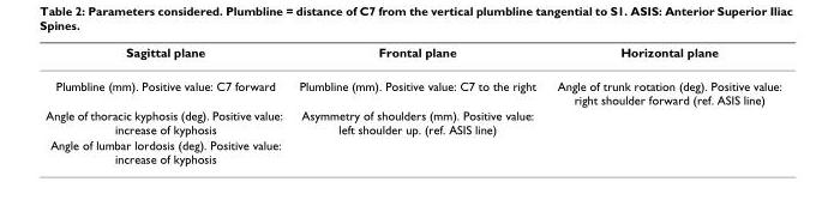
<table><thead><tr><td>Sagittal plane</td><td>Frontal plane</td><td>Horizontal plane</td></tr></thead><tbody><tr><td>Plumbline (mm). Positive value: C7 forward</td><td>Plumbline (mm). Positive value: C7 to the right</td><td>Angle of trunk rotation (deg). Positive value: right shoulder forward (ref. ASIS line)</td></tr><tr><td>Angle of thoracic kyphosis (deg). Positive value: increase of kyphosis</td><td>Asymmetry of shoulders (mm). Positive value: left shoulder up. (ref. ASIS line)</td><td></td></tr><tr><td>Angle of lumbar lordosis (deg). Positive value: increase of kyphosis</td><td></td><td></td></tr></tbody></table>